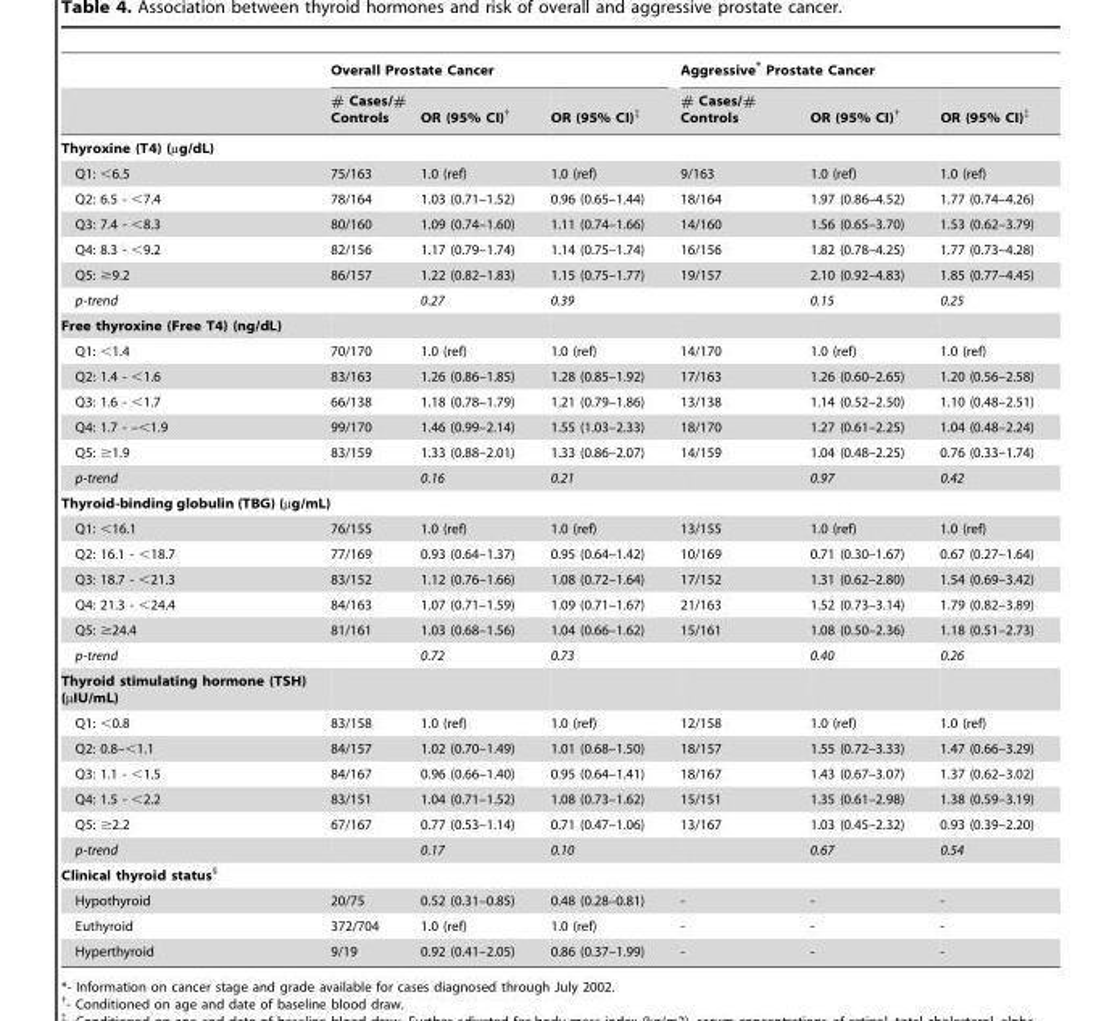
<table><thead><tr><td rowspan="2"></td><td colspan="3">Overall Prostate Cancer</td><td colspan="3">Aggressive* Prostate Cancer</td></tr><tr><td># Cases/# Controls</td><td>OR (95% CI)†</td><td>OR (95% CI)‡</td><td># Cases/# Controls</td><td>OR (95% CI)†</td><td>OR (95% CI)‡</td></tr></thead><tbody><tr><td colspan="7">Thyroxine (T4) (µg/dL)</td></tr><tr><td>Q1: &lt;6.5</td><td>75/163</td><td>1.0 (ref)</td><td>1.0 (ref)</td><td>9/163</td><td>1.0 (ref)</td><td>1.0 (ref)</td></tr><tr><td>Q2: 6.5 - &lt;7.4</td><td>78/164</td><td>1.03 (0.71–1.52)</td><td>0.96 (0.65–1.44)</td><td>18/164</td><td>1.97 (0.86–4.52)</td><td>1.77 (0.74–4.26)</td></tr><tr><td>Q3: 7.4 - &lt;8.3</td><td>80/160</td><td>1.09 (0.74–1.60)</td><td>1.11 (0.74–1.66)</td><td>14/160</td><td>1.56 (0.65–3.70)</td><td>1.53 (0.62–3.79)</td></tr><tr><td>Q4: 8.3 - &lt;9.2</td><td>82/156</td><td>1.17 (0.79–1.74)</td><td>1.14 (0.75–1.74)</td><td>16/156</td><td>1.82 (0.78–4.25)</td><td>1.77 (0.73–4.28)</td></tr><tr><td>Q5: ≥9.2</td><td>86/157</td><td>1.22 (0.82–1.83)</td><td>1.15 (0.75–1.77)</td><td>19/157</td><td>2.10 (0.92–4.83)</td><td>1.85 (0.77–4.45)</td></tr><tr><td>p-trend</td><td></td><td>0.27</td><td>0.39</td><td></td><td>0.15</td><td>0.25</td></tr><tr><td colspan="7">Free thyroxine (Free T4) (ng/dL)</td></tr><tr><td>Q1: &lt;1.4</td><td>70/170</td><td>1.0 (ref)</td><td>1.0 (ref)</td><td>14/170</td><td>1.0 (ref)</td><td>1.0 (ref)</td></tr><tr><td>Q2: 1.4 - &lt;1.6</td><td>83/163</td><td>1.26 (0.86–1.85)</td><td>1.28 (0.85–1.92)</td><td>17/163</td><td>1.26 (0.60–2.65)</td><td>1.20 (0.56–2.58)</td></tr><tr><td>Q3: 1.6 - &lt;1.7</td><td>66/138</td><td>1.18 (0.78–1.79)</td><td>1.21 (0.79–1.86)</td><td>13/138</td><td>1.14 (0.52–2.50)</td><td>1.10 (0.48–2.51)</td></tr><tr><td>Q4: 1.7 - –&lt;1.9</td><td>99/170</td><td>1.46 (0.99–2.14)</td><td>1.55 (1.03–2.33)</td><td>18/170</td><td>1.27 (0.61–2.25)</td><td>1.04 (0.48–2.24)</td></tr><tr><td>Q5: ≥1.9</td><td>83/159</td><td>1.33 (0.88–2.01)</td><td>1.33 (0.86–2.07)</td><td>14/159</td><td>1.04 (0.48–2.25)</td><td>0.76 (0.33–1.74)</td></tr><tr><td>p-trend</td><td></td><td>0.16</td><td>0.21</td><td></td><td>0.97</td><td>0.42</td></tr><tr><td colspan="7">Thyroid-binding globulin (TBG) (µg/mL)</td></tr><tr><td>Q1: &lt;16.1</td><td>76/155</td><td>1.0 (ref)</td><td>1.0 (ref)</td><td>13/155</td><td>1.0 (ref)</td><td>1.0 (ref)</td></tr><tr><td>Q2: 16.1 - &lt;18.7</td><td>77/169</td><td>0.93 (0.64–1.37)</td><td>0.95 (0.64–1.42)</td><td>10/169</td><td>0.71 (0.30–1.67)</td><td>0.67 (0.27–1.64)</td></tr><tr><td>Q3: 18.7 - &lt;21.3</td><td>83/152</td><td>1.12 (0.76–1.66)</td><td>1.08 (0.72–1.64)</td><td>17/152</td><td>1.31 (0.62–2.80)</td><td>1.54 (0.69–3.42)</td></tr><tr><td>Q4: 21.3 - &lt;24.4</td><td>84/163</td><td>1.07 (0.71–1.59)</td><td>1.09 (0.71–1.67)</td><td>21/163</td><td>1.52 (0.73–3.14)</td><td>1.79 (0.82–3.89)</td></tr><tr><td>Q5: ≥24.4</td><td>81/161</td><td>1.03 (0.68–1.56)</td><td>1.04 (0.66–1.62)</td><td>15/161</td><td>1.08 (0.50–2.36)</td><td>1.18 (0.51–2.73)</td></tr><tr><td>p-trend</td><td></td><td>0.72</td><td>0.73</td><td></td><td>0.40</td><td>0.26</td></tr><tr><td colspan="7">Thyroid stimulating hormone (TSH) (µIU/mL)</td></tr><tr><td>Q1: &lt;0.8</td><td>83/158</td><td>1.0 (ref)</td><td>1.0 (ref)</td><td>12/158</td><td>1.0 (ref)</td><td>1.0 (ref)</td></tr><tr><td>Q2: 0.8–&lt;1.1</td><td>84/157</td><td>1.02 (0.70–1.49)</td><td>1.01 (0.68–1.50)</td><td>18/157</td><td>1.55 (0.72–3.33)</td><td>1.47 (0.66–3.29)</td></tr><tr><td>Q3: 1.1 - &lt;1.5</td><td>84/167</td><td>0.96 (0.66–1.40)</td><td>0.95 (0.64–1.41)</td><td>18/167</td><td>1.43 (0.67–3.07)</td><td>1.37 (0.62–3.02)</td></tr><tr><td>Q4: 1.5 - &lt;2.2</td><td>83/151</td><td>1.04 (0.71–1.52)</td><td>1.08 (0.73–1.62)</td><td>15/151</td><td>1.35 (0.61–2.98)</td><td>1.38 (0.59–3.19)</td></tr><tr><td>Q5: ≥2.2</td><td>67/167</td><td>0.77 (0.53–1.14)</td><td>0.71 (0.47–1.06)</td><td>13/167</td><td>1.03 (0.45–2.32)</td><td>0.93 (0.39–2.20)</td></tr><tr><td>p-trend</td><td></td><td>0.17</td><td>0.10</td><td></td><td>0.67</td><td>0.54</td></tr><tr><td colspan="7">Clinical thyroid status§</td></tr><tr><td>Hypothyroid</td><td>20/75</td><td>0.52 (0.31–0.85)</td><td>0.48 (0.28–0.81)</td><td>-</td><td>-</td><td>-</td></tr><tr><td>Euthyroid</td><td>372/704</td><td>1.0 (ref)</td><td>1.0 (ref)</td><td>-</td><td>-</td><td>-</td></tr><tr><td>Hyperthyroid</td><td>9/19</td><td>0.92 (0.41–2.05)</td><td>0.86 (0.37–1.99)</td><td>-</td><td>-</td><td>-</td></tr></tbody></table>